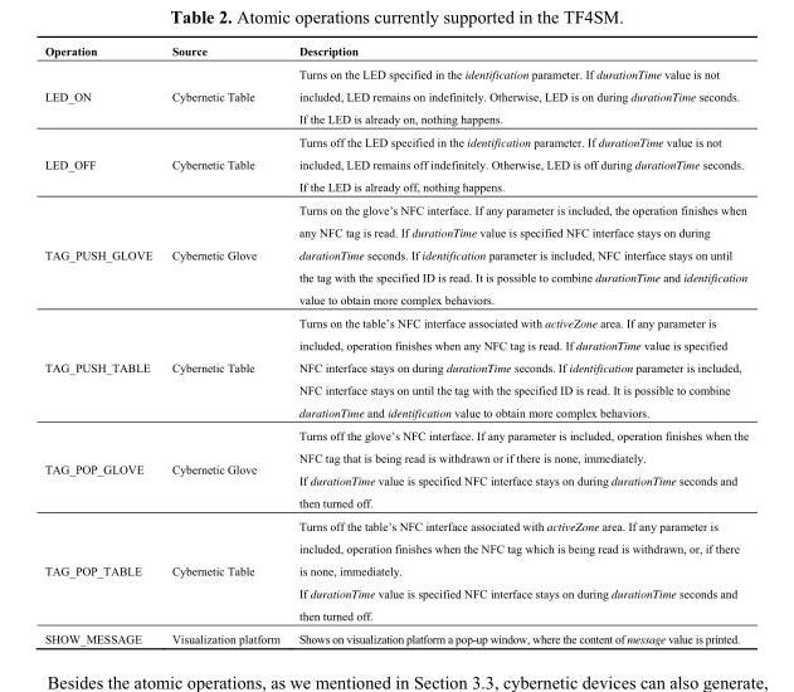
<table><thead><tr><td>Operation</td><td>Source</td><td>Description</td></tr></thead><tbody><tr><td>LED_ON</td><td>Cybernetic Table</td><td>Turns on the LED specified in the identification parameter. If durationTime value is not included, LED remains on indefinitely. Otherwise, LED is on during durationTime seconds. If the LED is already on, nothing happens.</td></tr><tr><td>LED_OFF</td><td>Cybernetic Table</td><td>Turns off the LED specified in the identification parameter. If durationTime value is not included, LED remains off indefinitely. Otherwise, LED is off during durationTime seconds. If the LED is already off, nothing happens.</td></tr><tr><td>TAG_PUSH_GLOVE</td><td>Cybernetic Glove</td><td>Turns on the glove’s NFC interface. If any parameter is included, the operation finishes when any NFC tag is read. If durationTime value is specified NFC interface stays on during durationTime seconds. If identification parameter is included, NFC interface stays on until the tag with the specified ID is read. It is possible to combine durationTime and identification value to obtain more complex behaviors.</td></tr><tr><td>TAG_PUSH_TABLE</td><td>Cybernetic Table</td><td>Turns on the table’s NFC interface associated with activeZone area. If any parameter is included, operation finishes when any NFC tag is read. If durationTime value is specified NFC interface stays on during durationTime seconds. If identification parameter is included, NFC interface stays on until the tag with the specified ID is read. It is possible to combine durationTime and identification value to obtain more complex behaviors.</td></tr><tr><td>TAG_POP_GLOVE</td><td>Cybernetic Glove</td><td>Turns off the glove’s NFC interface. If any parameter is included, operation finishes when the NFC tag that is being read is withdrawn or if there is none, immediately. If durationTime value is specified NFC interface stays on during durationTime seconds and then turned off.</td></tr><tr><td>TAG_POP_TABLE</td><td>Cybernetic Table</td><td>Turns off the table’s NFC interface associated with activeZone area. If any parameter is included, operation finishes when the NFC tag which is being read is withdrawn, or, if there is none, immediately. If durationTime value is specified NFC interface stays on during durationTime seconds and then turned off.</td></tr><tr><td>SHOW_MESSAGE</td><td>Visualization platform</td><td>Shows on visualization platform a pop-up window, where the content of message value is printed.</td></tr></tbody></table>